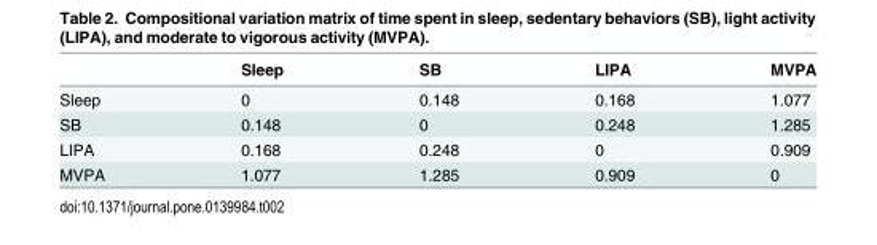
<table><thead><tr><td></td><td>Sleep</td><td>SB</td><td>LIPA</td><td>MVPA</td></tr></thead><tbody><tr><td>Sleep</td><td>0</td><td>0.148</td><td>0.168</td><td>1.077</td></tr><tr><td>SB</td><td>0.148</td><td>0</td><td>0.248</td><td>1.285</td></tr><tr><td>LIPA</td><td>0.168</td><td>0.248</td><td>0</td><td>0.909</td></tr><tr><td>MVPA</td><td>1.077</td><td>1.285</td><td>0.909</td><td>0</td></tr></tbody></table>